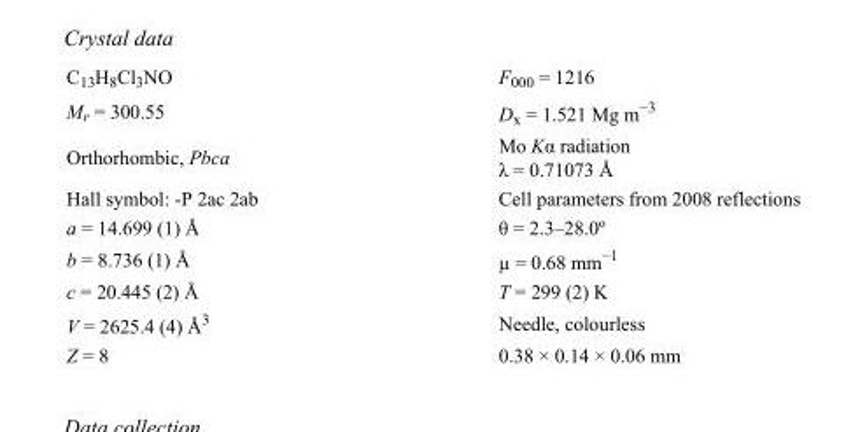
<table><tbody><tr><td>C<sub>13</sub>H<sub>8</sub>Cl<sub>3</sub>NO</td><td>F<sub>000</sub> = 1216</td></tr><tr><td>M<sub>r</sub> = 300.55</td><td>D<sub>x</sub> = 1.521 Mg m<sup>−3</sup></td></tr><tr><td>Orthorhombic, Pbca</td><td>Mo Kα radiation λ = 0.71073 Å</td></tr><tr><td>Hall symbol: -P 2ac 2ab</td><td>Cell parameters from 2008 reflections</td></tr><tr><td>a = 14.699 (1) Å</td><td>θ = 2.3–28.0º</td></tr><tr><td>b = 8.736 (1) Å</td><td>µ = 0.68 mm<sup>−1</sup></td></tr><tr><td>c = 20.445 (2) Å</td><td>T = 299 (2) K</td></tr><tr><td>V = 2625.4 (4) Å<sup>3</sup></td><td>Needle, colourless</td></tr><tr><td>Z = 8</td><td>0.38 × 0.14 × 0.06 mm</td></tr></tbody></table>